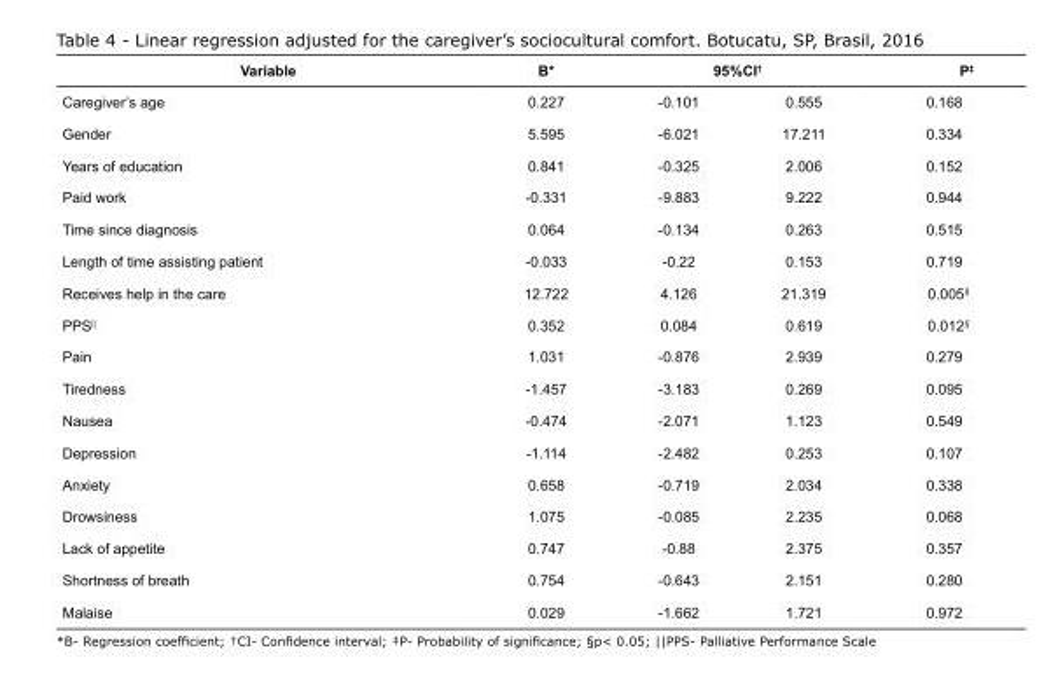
<table><tbody><tr><td>Variable</td><td>B*</td><td colspan="2">95%CI<sup>†</sup></td><td>P<sup>‡</sup></td></tr><tr><td>Caregiver’s age</td><td>0.227</td><td>-0.101</td><td>0.555</td><td>0.168</td></tr><tr><td>Gender</td><td>5.595</td><td>-6.021</td><td>17.211</td><td>0.334</td></tr><tr><td>Years of education</td><td>0.841</td><td>-0.325</td><td>2.006</td><td>0.152</td></tr><tr><td>Paid work</td><td>-0.331</td><td>-9.883</td><td>9.222</td><td>0.944</td></tr><tr><td>Time since diagnosis</td><td>0.064</td><td>-0.134</td><td>0.263</td><td>0.515</td></tr><tr><td>Length of time assisting patient</td><td>-0.033</td><td>-0.22</td><td>0.153</td><td>0.719</td></tr><tr><td>Receives help in the care</td><td>12.722</td><td>4.126</td><td>21.319</td><td>0.005<sup>§</sup></td></tr><tr><td>PPS<sup>||</sup></td><td>0.352</td><td>0.084</td><td>0.619</td><td>0.012<sup>§</sup></td></tr><tr><td>Pain</td><td>1.031</td><td>-0.876</td><td>2.939</td><td>0.279</td></tr><tr><td>Tiredness</td><td>-1.457</td><td>-3.183</td><td>0.269</td><td>0.095</td></tr><tr><td>Nausea</td><td>-0.474</td><td>-2.071</td><td>1.123</td><td>0.549</td></tr><tr><td>Depression</td><td>-1.114</td><td>-2.482</td><td>0.253</td><td>0.107</td></tr><tr><td>Anxiety</td><td>0.658</td><td>-0.719</td><td>2.034</td><td>0.338</td></tr><tr><td>Drowsiness</td><td>1.075</td><td>-0.085</td><td>2.235</td><td>0.068</td></tr><tr><td>Lack of appetite</td><td>0.747</td><td>-0.88</td><td>2.375</td><td>0.357</td></tr><tr><td>Shortness of breath</td><td>0.754</td><td>-0.643</td><td>2.151</td><td>0.280</td></tr><tr><td>Malaise</td><td>0.029</td><td>-1.662</td><td>1.721</td><td>0.972</td></tr></tbody></table>